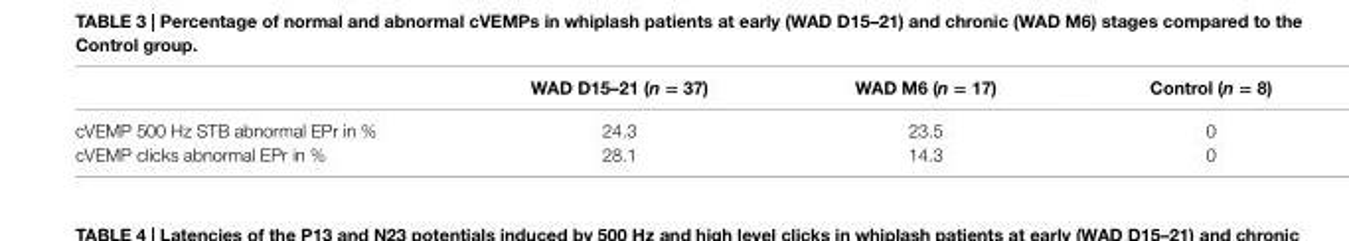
<table><thead><tr><td></td><td>WaD D15–21 (n = 37)</td><td>WaD M6 (n = 17)</td><td>control (n = 8)</td></tr></thead><tbody><tr><td>cVEMP 500 Hz STB abnormal EPr in %</td><td>24.3</td><td>23.5</td><td>0</td></tr><tr><td>cVEMP clicks abnormal EPr in %</td><td>28.1</td><td>14.3</td><td>0</td></tr></tbody></table>